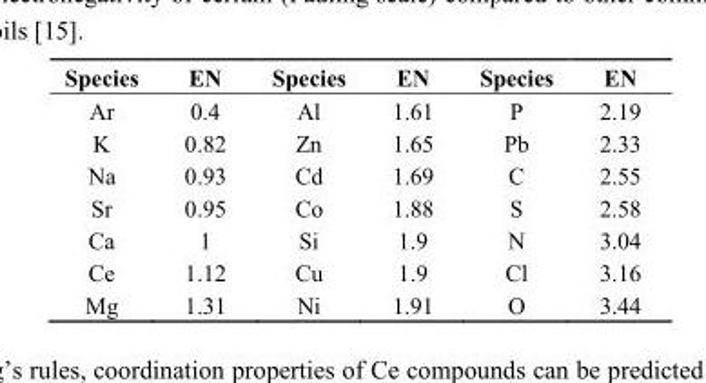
<table><thead><tr><td>Species</td><td>EN</td><td>Species</td><td>EN</td><td>Species</td><td>EN</td></tr></thead><tbody><tr><td>Ar</td><td>0.4</td><td>Al</td><td>1.61</td><td>P</td><td>2.19</td></tr><tr><td>K</td><td>0.82</td><td>Zn</td><td>1.65</td><td>Pb</td><td>2.33</td></tr><tr><td>Na</td><td>0.93</td><td>Cd</td><td>1.69</td><td>C</td><td>2.55</td></tr><tr><td>Sr</td><td>0.95</td><td>Co</td><td>1.88</td><td>S</td><td>2.58</td></tr><tr><td>Ca</td><td>1</td><td>Si</td><td>1.9</td><td>N</td><td>3.04</td></tr><tr><td>Ce</td><td>1.12</td><td>Cu</td><td>1.9</td><td>Cl</td><td>3.16</td></tr><tr><td>Mg</td><td>1.31</td><td>Ni</td><td>1.91</td><td>O</td><td>3.44</td></tr></tbody></table>